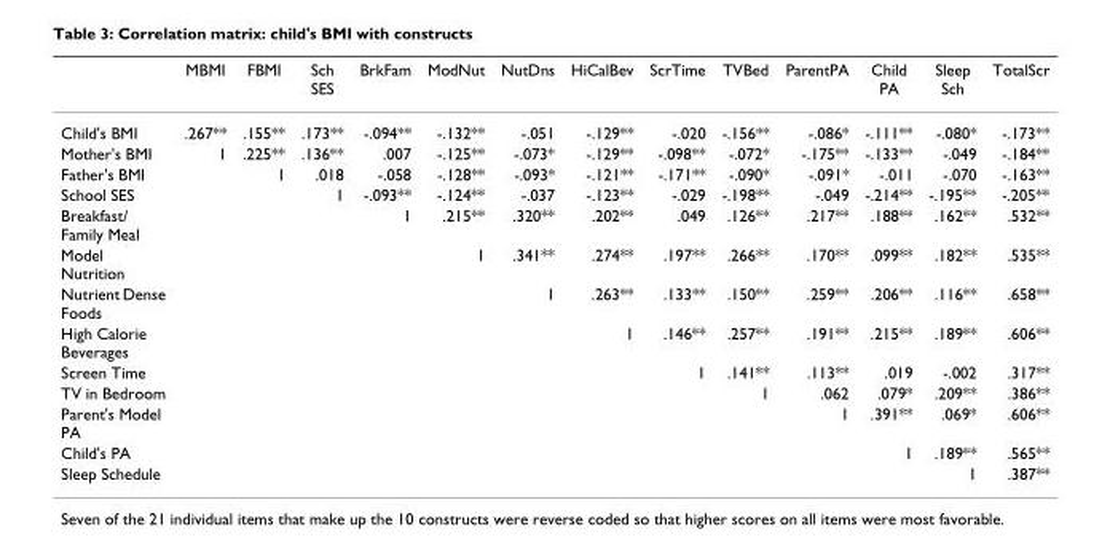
<table><thead><tr><td></td><td>MBMI</td><td>FBMI</td><td>Sch SES</td><td>BrkFam</td><td>ModNut</td><td>NutDns</td><td>HiCalBev</td><td>ScrTime</td><td>TVBed</td><td>ParentPA</td><td>Child PA</td><td>Sleep Sch</td><td>TotalScr</td></tr></thead><tbody><tr><td>Child&#x27;s BMI</td><td>.267**</td><td>.155**</td><td>.173**</td><td>-.094**</td><td>-.132**</td><td>-.051</td><td>-.129**</td><td>-.020</td><td>-.156**</td><td>-.086*</td><td>-.111**</td><td>-.080*</td><td>-.173**</td></tr><tr><td>Mother&#x27;s BMI</td><td>1</td><td>.225**</td><td>.136**</td><td>.007</td><td>-.125**</td><td>-.073*</td><td>-.129**</td><td>-.098**</td><td>-.072*</td><td>-.175**</td><td>-.133**</td><td>-.049</td><td>-.184**</td></tr><tr><td>Father&#x27;s BMI</td><td></td><td>1</td><td>.018</td><td>-.058</td><td>-.128**</td><td>-.093*</td><td>-.121**</td><td>-.171**</td><td>-.090*</td><td>-.091*</td><td>-.011</td><td>-.070</td><td>-.163**</td></tr><tr><td>School SES</td><td></td><td></td><td>1</td><td>-.093**</td><td>-.124**</td><td>-.037</td><td>-.123**</td><td>-.029</td><td>-.198**</td><td>-.049</td><td>-.214**</td><td>-.195**</td><td>-.205**</td></tr><tr><td>Breakfast/ Family Meal</td><td></td><td></td><td></td><td>1</td><td>.215**</td><td>.320**</td><td>.202**</td><td>.049</td><td>.126**</td><td>.217**</td><td>.188**</td><td>.162**</td><td>.532**</td></tr><tr><td>Model Nutrition</td><td></td><td></td><td></td><td></td><td>1</td><td>.341**</td><td>.274**</td><td>.197**</td><td>.266**</td><td>.170**</td><td>.099**</td><td>.182**</td><td>.535**</td></tr><tr><td>Nutrient Dense Foods</td><td></td><td></td><td></td><td></td><td></td><td>1</td><td>.263**</td><td>.133**</td><td>.150**</td><td>.259**</td><td>.206**</td><td>.116**</td><td>.658**</td></tr><tr><td>High Calorie Beverages</td><td></td><td></td><td></td><td></td><td></td><td></td><td>1</td><td>.146**</td><td>.257**</td><td>.191**</td><td>.215**</td><td>.189**</td><td>.606**</td></tr><tr><td>Screen Time</td><td></td><td></td><td></td><td></td><td></td><td></td><td></td><td>1</td><td>.141**</td><td>.113**</td><td>.019</td><td>-.002</td><td>.317**</td></tr><tr><td>TV in Bedroom</td><td></td><td></td><td></td><td></td><td></td><td></td><td></td><td></td><td>1</td><td>.062</td><td>.079*</td><td>.209**</td><td>.386**</td></tr><tr><td>Parent&#x27;s Model PA</td><td></td><td></td><td></td><td></td><td></td><td></td><td></td><td></td><td></td><td>1</td><td>.391**</td><td>.069*</td><td>.606**</td></tr><tr><td>Child&#x27;s PA</td><td></td><td></td><td></td><td></td><td></td><td></td><td></td><td></td><td></td><td></td><td>1</td><td>.189**</td><td>.565**</td></tr><tr><td>Sleep Schedule</td><td></td><td></td><td></td><td></td><td></td><td></td><td></td><td></td><td></td><td></td><td></td><td>1</td><td>.387**</td></tr></tbody></table>